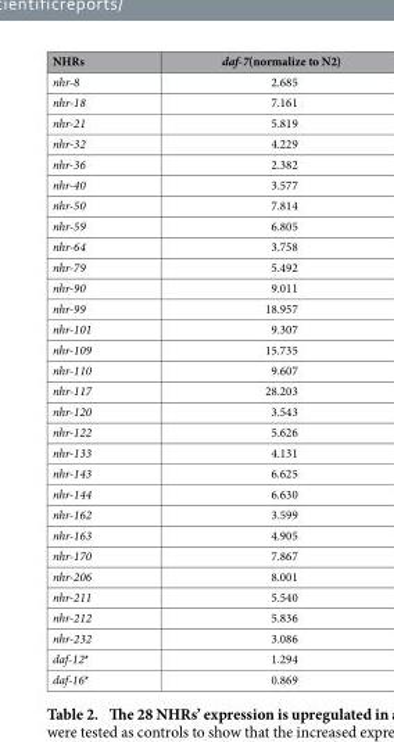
<table><thead><tr><td>NHRs</td><td>daf-7(normalize to N2)</td></tr></thead><tbody><tr><td>nhr-8</td><td>2.685</td></tr><tr><td>nhr-18</td><td>7.161</td></tr><tr><td>nhr-21</td><td>5.819</td></tr><tr><td>nhr-32</td><td>4.229</td></tr><tr><td>nhr-36</td><td>2.382</td></tr><tr><td>nhr-40</td><td>3.577</td></tr><tr><td>nhr-50</td><td>7.814</td></tr><tr><td>nhr-59</td><td>6.805</td></tr><tr><td>nhr-64</td><td>3.758</td></tr><tr><td>nhr-79</td><td>5.492</td></tr><tr><td>nhr-90</td><td>9.011</td></tr><tr><td>nhr-99</td><td>18.957</td></tr><tr><td>nhr-101</td><td>9.307</td></tr><tr><td>nhr-109</td><td>15.735</td></tr><tr><td>nhr-110</td><td>9.607</td></tr><tr><td>nhr-117</td><td>28.203</td></tr><tr><td>nhr-120</td><td>3.543</td></tr><tr><td>nhr-122</td><td>5.626</td></tr><tr><td>nhr-133</td><td>4.131</td></tr><tr><td>nhr-143</td><td>6.625</td></tr><tr><td>nhr-144</td><td>6.630</td></tr><tr><td>nhr-162</td><td>3.599</td></tr><tr><td>nhr-163</td><td>4.905</td></tr><tr><td>nhr-170</td><td>7.867</td></tr><tr><td>nhr-206</td><td>8.001</td></tr><tr><td>nhr-211</td><td>5.540</td></tr><tr><td>nhr-212</td><td>5.836</td></tr><tr><td>nhr-232</td><td>3.086</td></tr><tr><td>daf-12*</td><td>1.294</td></tr><tr><td>daf-16*</td><td>0.869</td></tr></tbody></table>